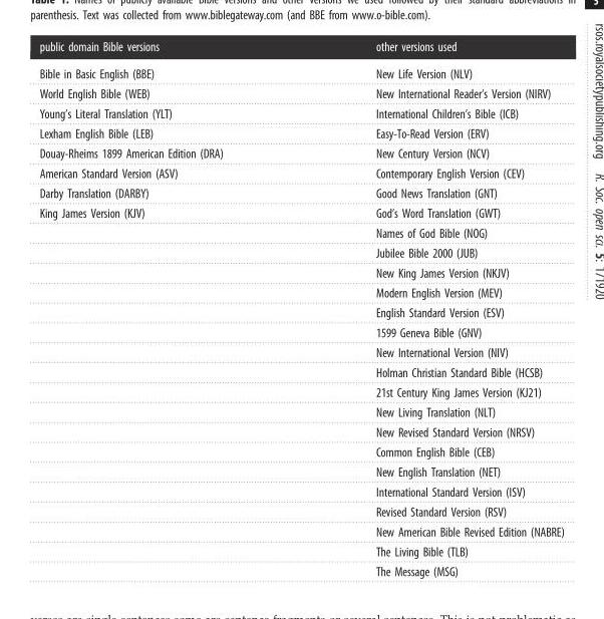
<table><thead><tr><td>public domain Bible versions</td><td>other versions used</td></tr></thead><tbody><tr><td>Bible in Basic English (BBE)</td><td>New Life Version (NLV)</td></tr><tr><td>World English Bible (WEB)</td><td>New International Reader’s Version (NIRV)</td></tr><tr><td>Young’s Literal Translation (YLT)</td><td>International Children’s Bible (ICB)</td></tr><tr><td>Lexham English Bible (LEB)</td><td>Easy-To-Read Version (ERV)</td></tr><tr><td>Douay-Rheims 1899 American Edition (DRA)</td><td>New Century Version (NCV)</td></tr><tr><td>American Standard Version (ASV)</td><td>Contemporary English Version (CEV)</td></tr><tr><td>Darby Translation (DARBY)</td><td>Good News Translation (GNT)</td></tr><tr><td rowspan="19">King James Version (KJV)</td><td>God’s Word Translation (GWT)</td></tr><tr><td>Names of God Bible (NOG)</td></tr><tr><td>Jubilee Bible 2000 (JUB)</td></tr><tr><td>New King James Version (NKJV)</td></tr><tr><td>Modern English Version (MEV)</td></tr><tr><td>English Standard Version (ESV)</td></tr><tr><td>1599 Geneva Bible (GNV)</td></tr><tr><td>New International Version (NIV)</td></tr><tr><td>Holman Christian Standard Bible (HCSB)</td></tr><tr><td>21st Century King James Version (KJ21)</td></tr><tr><td>New Living Translation (NLT)</td></tr><tr><td>New Revised Standard Version (NRSV)</td></tr><tr><td>Common English Bible (CEB)</td></tr><tr><td>New English Translation (NET)</td></tr><tr><td>International Standard Version (ISV)</td></tr><tr><td>Revised Standard Version (RSV)</td></tr><tr><td>New American Bible Revised Edition (NABRE)</td></tr><tr><td>The Living Bible (TLB)</td></tr><tr><td>The Message (MSG)</td></tr></tbody></table>